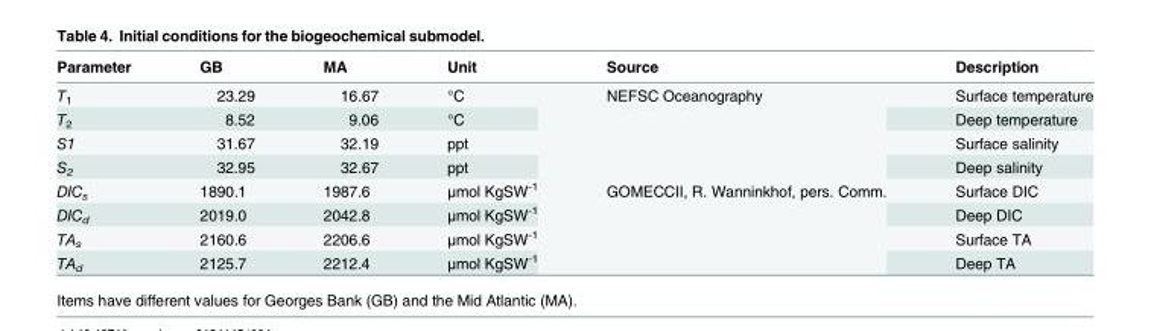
<table><thead><tr><td>Parameter</td><td>GB</td><td>MA</td><td>Unit</td><td>Source</td><td>Description</td></tr></thead><tbody><tr><td>T<sub>1</sub></td><td>23.29</td><td>16.67</td><td>°C</td><td rowspan="4">NEFSC Oceanography</td><td>Surface temperature</td></tr><tr><td>T<sub>2</sub></td><td>8.52</td><td>9.06</td><td>°C</td><td>Deep temperature</td></tr><tr><td>S1</td><td>31.67</td><td>32.19</td><td>ppt</td><td>Surface salinity</td></tr><tr><td>S<sub>2</sub></td><td>32.95</td><td>32.67</td><td>ppt</td><td>Deep salinity</td></tr><tr><td>DIC<sub>s</sub></td><td>1890.1</td><td>1987.6</td><td>μmol KgSW<sup>-1</sup></td><td rowspan="4">GOMECCII, R. Wanninkhof, pers. Comm.</td><td>Surface DIC</td></tr><tr><td>DIC<sub>d</sub></td><td>2019.0</td><td>2042.8</td><td>μmol KgSW<sup>-1</sup></td><td>Deep DIC</td></tr><tr><td>TA<sub>s</sub></td><td>2160.6</td><td>2206.6</td><td>μmol KgSW<sup>-1</sup></td><td>Surface TA</td></tr><tr><td>TA<sub>d</sub></td><td>2125.7</td><td>2212.4</td><td>μmol KgSW<sup>-1</sup></td><td>Deep TA</td></tr></tbody></table>